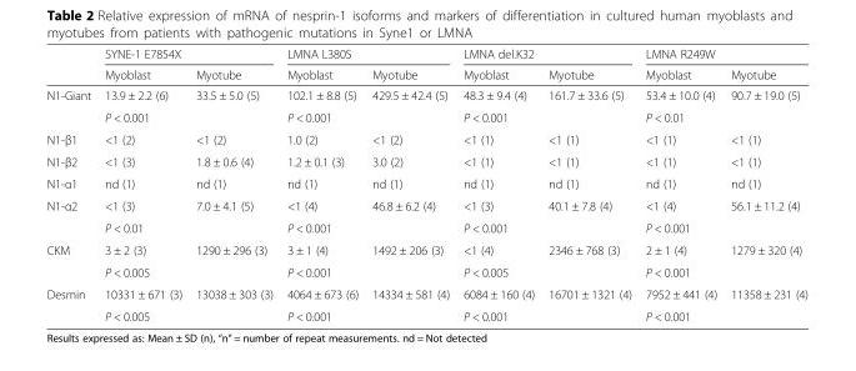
<table><thead><tr><td rowspan="2"></td><td colspan="2">SYNE-1 E7854X</td><td colspan="2">LMNA L380S</td><td colspan="2">LMNA del.K32</td><td colspan="2">LMNA R249W</td></tr><tr><td>Myoblast</td><td>Myotube</td><td>Myoblast</td><td>Myotube</td><td>Myoblast</td><td>Myotube</td><td>Myoblast</td><td>Myotube</td></tr></thead><tbody><tr><td rowspan="2">N1-Giant</td><td>13.9 ± 2.2 (6)</td><td>33.5 ± 5.0 (5)</td><td>102.1 ± 8.8 (5)</td><td>429.5 ± 42.4 (5)</td><td>48.3 ± 9.4 (4)</td><td>161.7 ± 33.6 (5)</td><td>53.4 ± 10.0 (4)</td><td>90.7 ± 19.0 (5)</td></tr><tr><td colspan="2">P &lt; 0.001</td><td colspan="2">P &lt; 0.001</td><td colspan="2">P &lt; 0.001</td><td colspan="2">P &lt; 0.01</td></tr><tr><td>N1-β1</td><td>&lt;1 (2)</td><td>&lt;1 (2)</td><td>1.0 (2)</td><td>&lt;1 (2)</td><td>&lt;1 (1)</td><td>&lt;1 (1)</td><td>&lt;1 (1)</td><td>&lt;1 (1)</td></tr><tr><td>N1-β2</td><td>&lt;1 (3)</td><td>1.8 ± 0.6 (4)</td><td>1.2 ± 0.1 (3)</td><td>3.0 (2)</td><td>&lt;1 (1)</td><td>&lt;1 (1)</td><td>&lt;1 (1)</td><td>&lt;1 (1)</td></tr><tr><td>N1-α1</td><td>nd (1)</td><td>nd (1)</td><td>nd (1)</td><td>nd (1)</td><td>nd (1)</td><td>nd (1)</td><td>nd (1)</td><td>nd (1)</td></tr><tr><td rowspan="2">N1-α2</td><td>&lt;1 (3)</td><td>7.0 ± 4.1 (5)</td><td>&lt;1 (4)</td><td>46.8 ± 6.2 (4)</td><td>&lt;1 (3)</td><td>40.1 ± 7.8 (4)</td><td>&lt;1 (4)</td><td>56.1 ± 11.2 (4)</td></tr><tr><td colspan="2">P &lt; 0.01</td><td colspan="2">P &lt; 0.001</td><td colspan="2">P &lt; 0.001</td><td colspan="2">P &lt; 0.001</td></tr><tr><td rowspan="2">CKM</td><td>3 ± 2 (3)</td><td>1290 ± 296 (3)</td><td>3 ± 1 (4)</td><td>1492 ± 206 (3)</td><td>&lt;1 (4)</td><td>2346 ± 768 (3)</td><td>2 ± 1 (4)</td><td>1279 ± 320 (4)</td></tr><tr><td colspan="2">P &lt; 0.005</td><td colspan="2">P &lt; 0.001</td><td colspan="2">P &lt; 0.005</td><td colspan="2">P &lt; 0.001</td></tr><tr><td rowspan="2">Desmin</td><td>10331 ± 671 (3)</td><td>13038 ± 303 (3)</td><td>4064 ± 673 (6)</td><td>14334 ± 581 (4)</td><td>6084 ± 160 (4)</td><td>16701 ± 1321 (4)</td><td>7952 ± 441 (4)</td><td>11358 ± 231 (4)</td></tr><tr><td colspan="2">P &lt; 0.005</td><td colspan="2">P &lt; 0.001</td><td colspan="2">P &lt; 0.001</td><td colspan="2">P &lt; 0.001</td></tr></tbody></table>